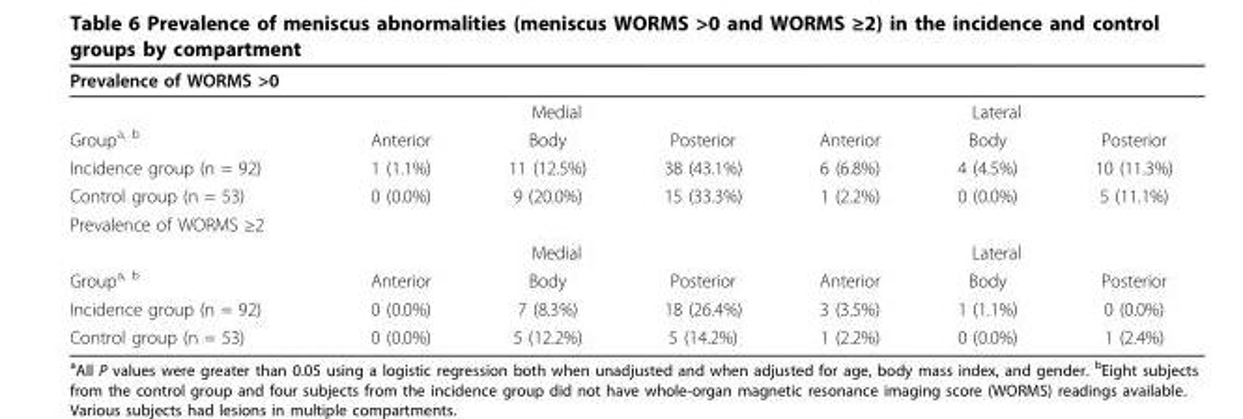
<table><thead><tr><td colspan="7">Prevalence of WORMS &gt;0</td></tr><tr><td rowspan="2">Group<sup>a, b</sup></td><td colspan="3">Medial</td><td colspan="3">Lateral</td></tr><tr><td>Anterior</td><td>Body</td><td>Posterior</td><td>Anterior</td><td>Body</td><td>Posterior</td></tr></thead><tbody><tr><td>Incidence group (n = 92)</td><td>1 (1.1%)</td><td>11 (12.5%)</td><td>38 (43.1%)</td><td>6 (6.8%)</td><td>4 (4.5%)</td><td>10 (11.3%)</td></tr><tr><td>Control group (n = 53)</td><td>0 (0.0%)</td><td>9 (20.0%)</td><td>15 (33.3%)</td><td>1 (2.2%)</td><td>0 (0.0%)</td><td>5 (11.1%)</td></tr><tr><td colspan="7">Prevalence of WORMS ≥2</td></tr><tr><td></td><td colspan="3">Medial</td><td colspan="3">Lateral</td></tr><tr><td>Group<sup>a, b</sup></td><td>Anterior</td><td>Body</td><td>Posterior</td><td>Anterior</td><td>Body</td><td>Posterior</td></tr><tr><td>Incidence group (n = 92)</td><td>0 (0.0%)</td><td>7 (8.3%)</td><td>18 (26.4%)</td><td>3 (3.5%)</td><td>1 (1.1%)</td><td>0 (0.0%)</td></tr><tr><td>Control group (n = 53)</td><td>0 (0.0%)</td><td>5 (12.2%)</td><td>5 (14.2%)</td><td>1 (2.2%)</td><td>0 (0.0%)</td><td>1 (2.4%)</td></tr></tbody></table>